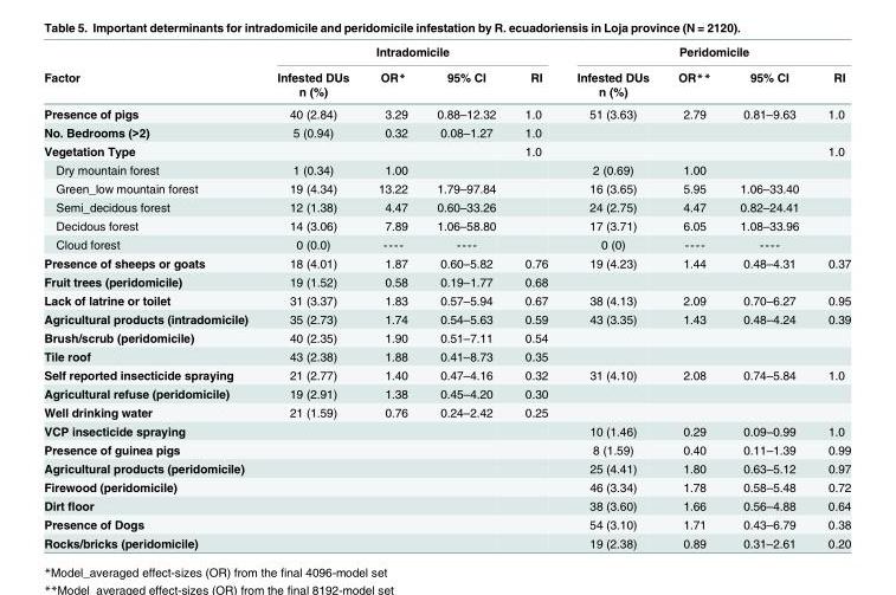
<table><thead><tr><td rowspan="3">Factor</td><td colspan="4">Intradomicile</td><td colspan="4">Peridomicile</td></tr><tr><td rowspan="2">Infested DUs n (%)</td><td rowspan="2">OR*</td><td rowspan="2">95% CI</td><td rowspan="2">RI</td><td rowspan="2">Infested DUs n (%)</td><td rowspan="2">OR**</td><td rowspan="2">95% CI</td><td rowspan="2">RI</td></tr><tr></tr></thead><tbody><tr><td>Presence of pigs</td><td>40 (2.84)</td><td>3.29</td><td>0.88–12.32</td><td>1.0</td><td>51 (3.63)</td><td>2.79</td><td>0.81–9.63</td><td>1.0</td></tr><tr><td>No. Bedrooms (&gt;2)</td><td>5 (0.94)</td><td>0.32</td><td>0.08–1.27</td><td>1.0</td><td></td><td></td><td></td><td></td></tr><tr><td>Vegetation Type</td><td></td><td></td><td></td><td>1.0</td><td></td><td></td><td></td><td>1.0</td></tr><tr><td>Dry mountain forest</td><td>1 (0.34)</td><td>1.00</td><td></td><td></td><td>2 (0.69)</td><td>1.00</td><td></td><td></td></tr><tr><td>Green_low mountain forest</td><td>19 (4.34)</td><td>13.22</td><td>1.79–97.84</td><td></td><td>16 (3.65)</td><td>5.95</td><td>1.06–33.40</td><td></td></tr><tr><td>Semi_decidous forest</td><td>12 (1.38)</td><td>4.47</td><td>0.60–33.26</td><td></td><td>24 (2.75)</td><td>4.47</td><td>0.82–24.41</td><td></td></tr><tr><td>Decidous forest</td><td>14 (3.06)</td><td>7.89</td><td>1.06–58.80</td><td></td><td>17 (3.71)</td><td>6.05</td><td>1.08–33.96</td><td></td></tr><tr><td>Cloud forest</td><td>0 (0.0)</td><td>----</td><td>----</td><td></td><td>0 (0)</td><td>----</td><td>----</td><td></td></tr><tr><td>Presence of sheeps or goats</td><td>18 (4.01)</td><td>1.87</td><td>0.60–5.82</td><td>0.76</td><td>19 (4.23)</td><td>1.44</td><td>0.48–4.31</td><td>0.37</td></tr><tr><td>Fruit trees (peridomicile)</td><td>19 (1.52)</td><td>0.58</td><td>0.19–1.77</td><td>0.68</td><td></td><td></td><td></td><td></td></tr><tr><td>Lack of latrine or toilet</td><td>31 (3.37)</td><td>1.83</td><td>0.57–5.94</td><td>0.67</td><td>38 (4.13)</td><td>2.09</td><td>0.70–6.27</td><td>0.95</td></tr><tr><td>Agricultural products (intradomicile)</td><td>35 (2.73)</td><td>1.74</td><td>0.54–5.63</td><td>0.59</td><td>43 (3.35)</td><td>1.43</td><td>0.48–4.24</td><td>0.39</td></tr><tr><td>Brush/scrub (peridomicile)</td><td>40 (2.35)</td><td>1.90</td><td>0.51–7.11</td><td>0.54</td><td></td><td></td><td></td><td></td></tr><tr><td>Tile roof</td><td>43 (2.38)</td><td>1.88</td><td>0.41–8.73</td><td>0.35</td><td></td><td></td><td></td><td></td></tr><tr><td>Self reported insecticide spraying</td><td>21 (2.77)</td><td>1.40</td><td>0.47–4.16</td><td>0.32</td><td>31 (4.10)</td><td>2.08</td><td>0.74–5.84</td><td>1.0</td></tr><tr><td>Agricultural refuse (peridomicile)</td><td>19 (2.91)</td><td>1.38</td><td>0.45–4.20</td><td>0.30</td><td></td><td></td><td></td><td></td></tr><tr><td>Well drinking water</td><td>21 (1.59)</td><td>0.76</td><td>0.24–2.42</td><td>0.25</td><td></td><td></td><td></td><td></td></tr><tr><td>VCP insecticide spraying</td><td></td><td></td><td></td><td></td><td>10 (1.46)</td><td>0.29</td><td>0.09–0.99</td><td>1.0</td></tr><tr><td>Presence of guinea pigs</td><td></td><td></td><td></td><td></td><td>8 (1.59)</td><td>0.40</td><td>0.11–1.39</td><td>0.99</td></tr><tr><td>Agricultural products (peridomicile)</td><td></td><td></td><td></td><td></td><td>25 (4.41)</td><td>1.80</td><td>0.63–5.12</td><td>0.97</td></tr><tr><td>Firewood (peridomicile)</td><td></td><td></td><td></td><td></td><td>46 (3.34)</td><td>1.78</td><td>0.58–5.48</td><td>0.72</td></tr><tr><td>Dirt floor</td><td></td><td></td><td></td><td></td><td>38 (3.60)</td><td>1.66</td><td>0.56–4.88</td><td>0.64</td></tr><tr><td>Presence of Dogs</td><td></td><td></td><td></td><td></td><td>54 (3.10)</td><td>1.71</td><td>0.43–6.79</td><td>0.38</td></tr><tr><td>Rocks/bricks (peridomicile)</td><td></td><td></td><td></td><td></td><td>19 (2.38)</td><td>0.89</td><td>0.31–2.61</td><td>0.20</td></tr></tbody></table>